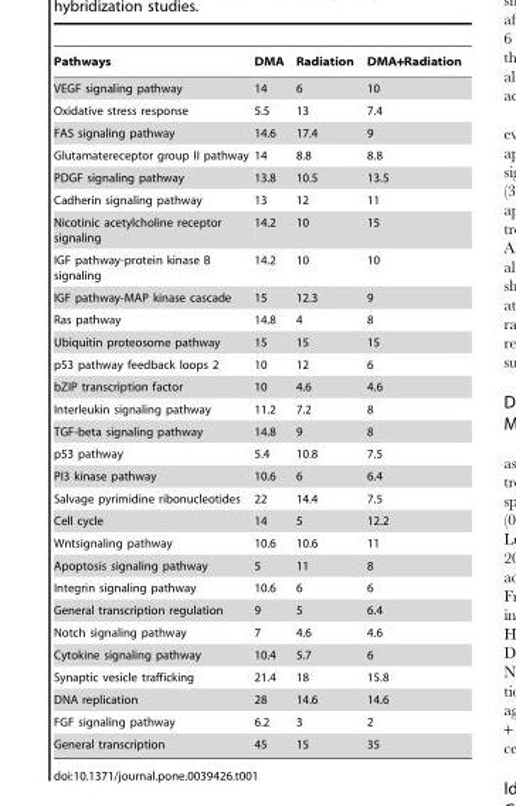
<table><thead><tr><td>Pathways</td><td>DMA</td><td>Radiation</td><td>DMA+Radiation</td></tr></thead><tbody><tr><td>VEGF signaling pathway</td><td>14</td><td>6</td><td>10</td></tr><tr><td>Oxidative stress response</td><td>5.5</td><td>13</td><td>7.4</td></tr><tr><td>FAS signaling pathway</td><td>14.6</td><td>17.4</td><td>9</td></tr><tr><td>Glutamatereceptor group II pathway</td><td>14</td><td>8.8</td><td>8.8</td></tr><tr><td>PDGF signaling pathway</td><td>13.8</td><td>10.5</td><td>13.5</td></tr><tr><td>Cadherin signaling pathway</td><td>13</td><td>12</td><td>11</td></tr><tr><td>Nicotinic acetylcholine receptor signaling</td><td>14.2</td><td>10</td><td>15</td></tr><tr><td>IGF pathway-protein kinase B signaling</td><td>14.2</td><td>10</td><td>10</td></tr><tr><td>IGF pathway-MAP kinase cascade</td><td>15</td><td>12.3</td><td>9</td></tr><tr><td>Ras pathway</td><td>14.8</td><td>4</td><td>8</td></tr><tr><td>Ubiquitin proteosome pathway</td><td>15</td><td>15</td><td>15</td></tr><tr><td>p53 pathway feedback loops 2</td><td>10</td><td>12</td><td>6</td></tr><tr><td>bZIP transcription factor</td><td>10</td><td>4.6</td><td>4.6</td></tr><tr><td>Interleukin signaling pathway</td><td>11.2</td><td>7.2</td><td>8</td></tr><tr><td>TGF-beta signaling pathway</td><td>14.8</td><td>9</td><td>8</td></tr><tr><td>p53 pathway</td><td>5.4</td><td>10.8</td><td>7.5</td></tr><tr><td>PI3 kinase pathway</td><td>10.6</td><td>6</td><td>6.4</td></tr><tr><td>Salvage pyrimidine ribonucleotides</td><td>22</td><td>14.4</td><td>7.5</td></tr><tr><td>Cell cycle</td><td>14</td><td>5</td><td>12.2</td></tr><tr><td>Wntsignaling pathway</td><td>10.6</td><td>10.6</td><td>11</td></tr><tr><td>Apoptosis signaling pathway</td><td>5</td><td>11</td><td>8</td></tr><tr><td>Integrin signaling pathway</td><td>10.6</td><td>6</td><td>6</td></tr><tr><td>General transcription regulation</td><td>9</td><td>5</td><td>6.4</td></tr><tr><td>Notch signaling pathway</td><td>7</td><td>4.6</td><td>4.6</td></tr><tr><td>Cytokine signaling pathway</td><td>10.4</td><td>5.7</td><td>6</td></tr><tr><td>Synaptic vesicle trafficking</td><td>21.4</td><td>18</td><td>15.8</td></tr><tr><td>DNA replication</td><td>28</td><td>14.6</td><td>14.6</td></tr><tr><td>FGF signaling pathway</td><td>6.2</td><td>3</td><td>2</td></tr><tr><td>General transcription</td><td>45</td><td>15</td><td>35</td></tr></tbody></table>